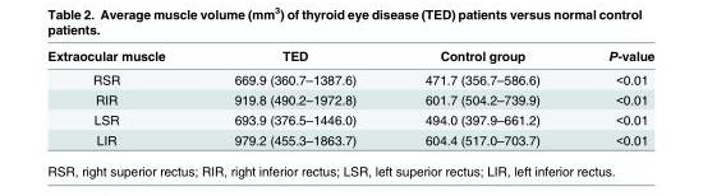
<table><thead><tr><td>Extraocular muscle</td><td>TED</td><td>Control group</td><td>P-value</td></tr></thead><tbody><tr><td>RSR</td><td>669.9 (360.7–1387.6)</td><td>471.7 (356.7–586.6)</td><td>&lt;0.01</td></tr><tr><td>RIR</td><td>919.8 (490.2–1972.8)</td><td>601.7 (504.2–739.9)</td><td>&lt;0.01</td></tr><tr><td>LSR</td><td>693.9 (376.5–1446.0)</td><td>494.0 (397.9–661.2)</td><td>&lt;0.01</td></tr><tr><td>LIR</td><td>979.2 (455.3–1863.7)</td><td>604.4 (517.0–703.7)</td><td>&lt;0.01</td></tr></tbody></table>